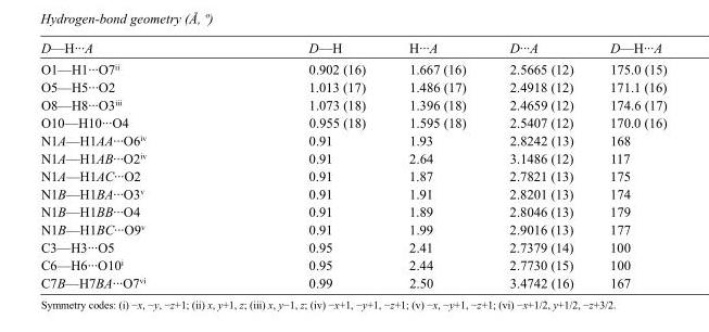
<table><tbody><tr><td>D—H···A</td><td>D—H</td><td>H···A</td><td>D···A</td><td>D—H···A</td></tr><tr><td>O1—H1···O7<sup>ii</sup></td><td>0.902 (16)</td><td>1.667 (16)</td><td>2.5665 (12)</td><td>175.0 (15)</td></tr><tr><td>O5—H5···O2</td><td>1.013 (17)</td><td>1.486 (17)</td><td>2.4918 (12)</td><td>171.1 (16)</td></tr><tr><td>O8—H8···O3<sup>iii</sup></td><td>1.073 (18)</td><td>1.396 (18)</td><td>2.4659 (12)</td><td>174.6 (17)</td></tr><tr><td>O10—H10···O4</td><td>0.955 (18)</td><td>1.595 (18)</td><td>2.5407 (12)</td><td>170.0 (16)</td></tr><tr><td>N1A—H1AA···O6<sup>iv</sup></td><td>0.91</td><td>1.93</td><td>2.8242 (13)</td><td>168</td></tr><tr><td>N1A—H1AB···O2<sup>iv</sup></td><td>0.91</td><td>2.64</td><td>3.1486 (12)</td><td>117</td></tr><tr><td>N1A—H1AC···O2</td><td>0.91</td><td>1.87</td><td>2.7821 (13)</td><td>175</td></tr><tr><td>N1B—H1BA···O3<sup>v</sup></td><td>0.91</td><td>1.91</td><td>2.8201 (13)</td><td>174</td></tr><tr><td>N1B—H1BB···O4</td><td>0.91</td><td>1.89</td><td>2.8046 (13)</td><td>179</td></tr><tr><td>N1B—H1BC···O9<sup>v</sup></td><td>0.91</td><td>1.99</td><td>2.9016 (13)</td><td>177</td></tr><tr><td>C3—H3···O5</td><td>0.95</td><td>2.41</td><td>2.7379 (14)</td><td>100</td></tr><tr><td>C6—H6···O10<sup>i</sup></td><td>0.95</td><td>2.44</td><td>2.7730 (15)</td><td>100</td></tr><tr><td>C7B—H7BA···O7<sup>vi</sup></td><td>0.99</td><td>2.50</td><td>3.4742 (16)</td><td>167</td></tr></tbody></table>